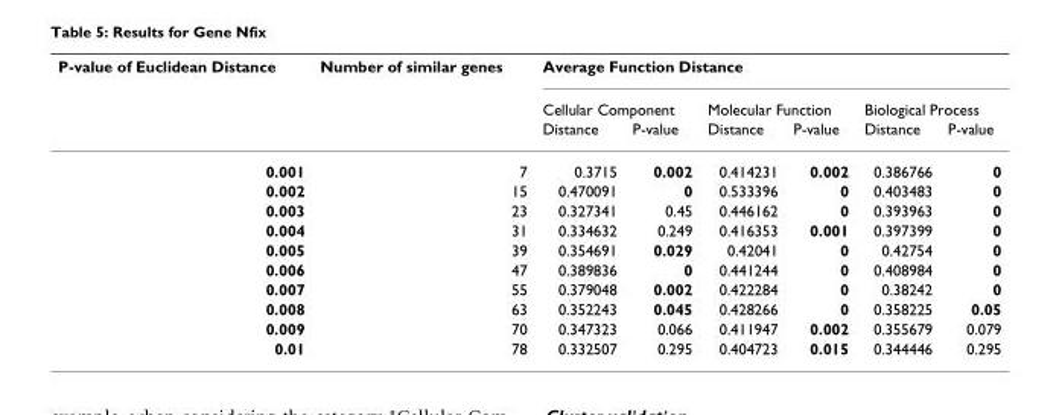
<table><thead><tr><td rowspan="3">P-value of Euclidean Distance</td><td rowspan="3">Number of similar genes</td><td colspan="6">Average Function Distance</td></tr><tr><td colspan="2">Cellular Component</td><td colspan="2">Molecular Function</td><td colspan="2">Biological Process</td></tr><tr><td>Distance</td><td>P-value</td><td>Distance</td><td>P-value</td><td>Distance</td><td>P-value</td></tr></thead><tbody><tr><td>0.001</td><td>7</td><td>0.3715</td><td>0.002</td><td>0.414231</td><td>0.002</td><td>0.386766</td><td>0</td></tr><tr><td>0.002</td><td>15</td><td>0.470091</td><td>0</td><td>0.533396</td><td>0</td><td>0.403483</td><td>0</td></tr><tr><td>0.003</td><td>23</td><td>0.327341</td><td>0.45</td><td>0.446162</td><td>0</td><td>0.393963</td><td>0</td></tr><tr><td>0.004</td><td>31</td><td>0.334632</td><td>0.249</td><td>0.416353</td><td>0.001</td><td>0.397399</td><td>0</td></tr><tr><td>0.005</td><td>39</td><td>0.354691</td><td>0.029</td><td>0.42041</td><td>0</td><td>0.42754</td><td>0</td></tr><tr><td>0.006</td><td>47</td><td>0.389836</td><td>0</td><td>0.441244</td><td>0</td><td>0.408984</td><td>0</td></tr><tr><td>0.007</td><td>55</td><td>0.379048</td><td>0.002</td><td>0.422284</td><td>0</td><td>0.38242</td><td>0</td></tr><tr><td>0.008</td><td>63</td><td>0.352243</td><td>0.045</td><td>0.428266</td><td>0</td><td>0.358225</td><td>0.05</td></tr><tr><td>0.009</td><td>70</td><td>0.347323</td><td>0.066</td><td>0.411947</td><td>0.002</td><td>0.355679</td><td>0.079</td></tr><tr><td>0.01</td><td>78</td><td>0.332507</td><td>0.295</td><td>0.404723</td><td>0.015</td><td>0.344446</td><td>0.295</td></tr></tbody></table>